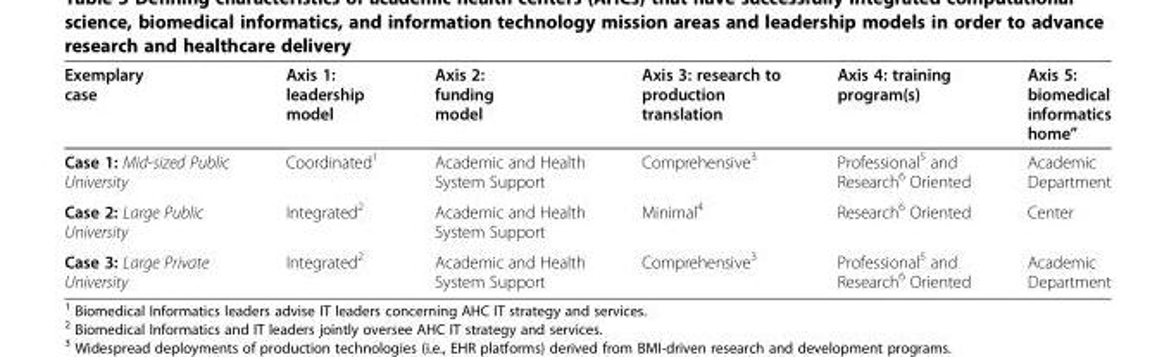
<table><thead><tr><td>Exemplary case</td><td>Axis 1: leadership model</td><td>Axis 2: funding model</td><td>Axis 3: research to production translation</td><td>Axis 4: training program(s)</td><td>Axis 5: biomedical informatics home”</td></tr></thead><tbody><tr><td>Case 1: Mid-sized Public University</td><td>Coordinated<sup>1</sup></td><td>Academic and Health System Support</td><td>Comprehensive<sup>3</sup></td><td>Professional<sup>5</sup> and Research<sup>6</sup> Oriented</td><td>Academic Department</td></tr><tr><td>Case 2: Large Public University</td><td>Integrated<sup>2</sup></td><td>Academic and Health System Support</td><td>Minimal<sup>4</sup></td><td>Research<sup>6</sup> Oriented</td><td>Center</td></tr><tr><td>Case 3: Large Private University</td><td>Integrated<sup>2</sup></td><td>Academic and Health System Support</td><td>Comprehensive<sup>3</sup></td><td>Professional<sup>5</sup> and Research<sup>6</sup> Oriented</td><td>Academic Department</td></tr></tbody></table>